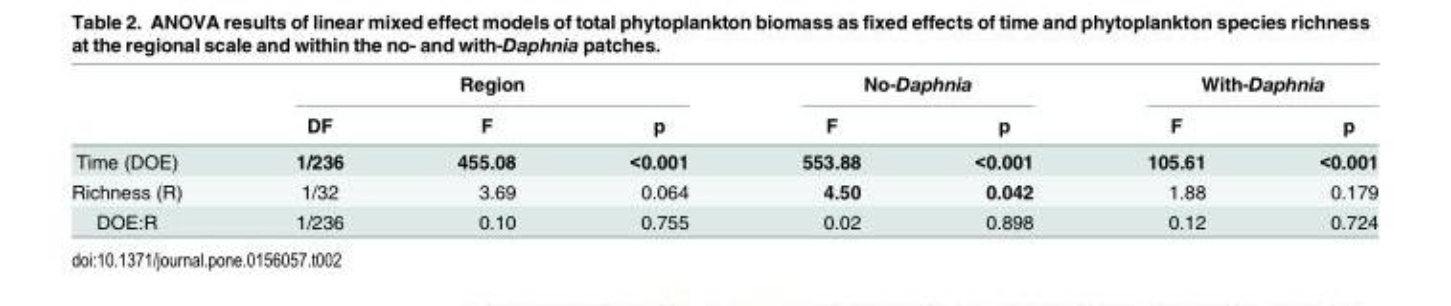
<table><thead><tr><td rowspan="2"></td><td colspan="3">Region</td><td colspan="2">No-Daphnia</td><td colspan="2">With-Daphnia</td></tr><tr><td>DF</td><td>F</td><td>p</td><td>F</td><td>p</td><td>F</td><td>p</td></tr></thead><tbody><tr><td>Time (DOE)</td><td>1/236</td><td>455.08</td><td>&lt;0.001</td><td>553.88</td><td>&lt;0.001</td><td>105.61</td><td>&lt;0.001</td></tr><tr><td>Richness (R)</td><td>1/32</td><td>3.69</td><td>0.064</td><td>4.50</td><td>0.042</td><td>1.88</td><td>0.179</td></tr><tr><td>DOE:R</td><td>1/236</td><td>0.10</td><td>0.755</td><td>0.02</td><td>0.898</td><td>0.12</td><td>0.724</td></tr></tbody></table>